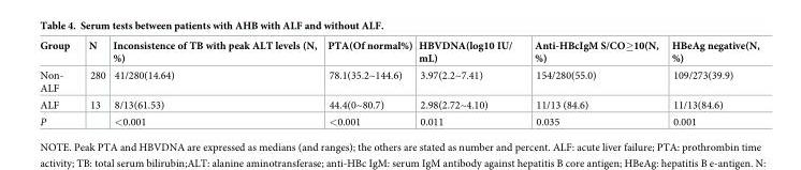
<table><thead><tr><td>Group</td><td>N</td><td>Inconsistence of TB with peak ALT levels (N, %)</td><td>PTA(Of normal%)</td><td>HBVDNA(log10 IU/ mL)</td><td>Anti-HBcIgM S/CO≥10(N, %)</td><td>HBeAg negative(N, %)</td></tr></thead><tbody><tr><td>Non- ALF</td><td>280</td><td>41/280(14.64)</td><td>78.1(35.2~144.6)</td><td>3.97(2.2~7.41)</td><td>154/280(55.0)</td><td>109/273(39.9)</td></tr><tr><td>ALF</td><td>13</td><td>8/13(61.53)</td><td>44.4(0~80.7)</td><td>2.98(2.72~4.10)</td><td>11/13 (84.6)</td><td>11/13(84.6)</td></tr><tr><td>P</td><td></td><td>&lt;0.001</td><td>&lt;0.001</td><td>0.011</td><td>0.035</td><td>0.001</td></tr></tbody></table>